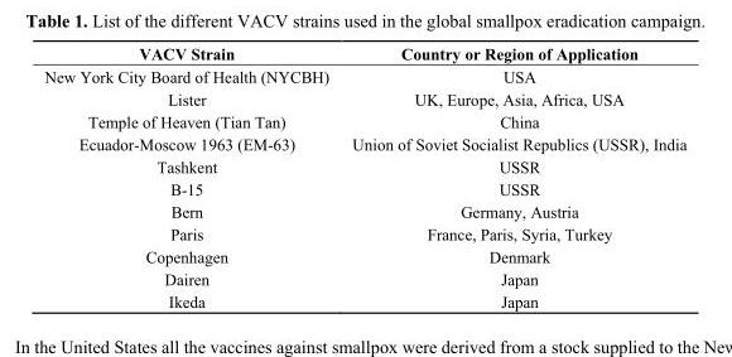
<table><thead><tr><td>VACV Strain</td><td>Country or Region of Application</td></tr></thead><tbody><tr><td>New York City Board of Health (NYCBH)</td><td>USA</td></tr><tr><td>Lister</td><td>UK, Europe, Asia, Africa, USA</td></tr><tr><td>Temple of Heaven (Tian Tan)</td><td>China</td></tr><tr><td>Ecuador-Moscow 1963 (EM-63)</td><td>Union of Soviet Socialist Republics (USSR), India</td></tr><tr><td>Tashkent</td><td>USSR</td></tr><tr><td>B-15</td><td>USSR</td></tr><tr><td>Bern</td><td>Germany, Austria</td></tr><tr><td>Paris</td><td>France, Paris, Syria, Turkey</td></tr><tr><td>Copenhagen</td><td>Denmark</td></tr><tr><td>Dairen</td><td>Japan</td></tr><tr><td>Ikeda</td><td>Japan</td></tr></tbody></table>